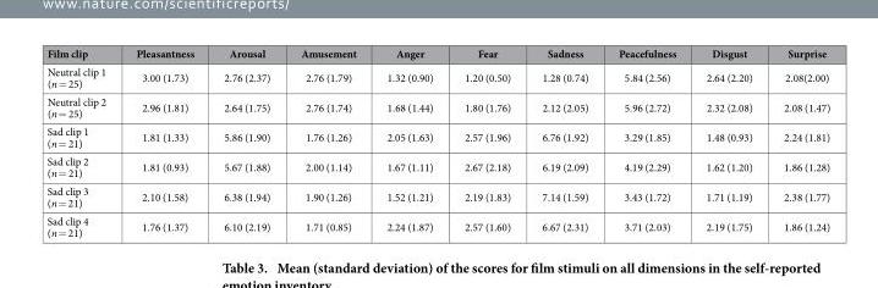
<table><thead><tr><td>Film clip</td><td>Pleasantness</td><td>Arousal</td><td>Amusement</td><td>Anger</td><td>Fear</td><td>Sadness</td><td>Peacefulness</td><td>Disgust</td><td>Surprise</td></tr></thead><tbody><tr><td>Neutral clip 1 (n = 25)</td><td>3.00 (1.73)</td><td>2.76 (2.37)</td><td>2.76 (1.79)</td><td>1.32 (0.90)</td><td>1.20 (0.50)</td><td>1.28 (0.74)</td><td>5.84 (2.56)</td><td>2.64 (2.20)</td><td>2.08(2.00)</td></tr><tr><td>Neutral clip 2 (n = 25)</td><td>2.96 (1.81)</td><td>2.64 (1.75)</td><td>2.76 (1.74)</td><td>1.68 (1.44)</td><td>1.80 (1.76)</td><td>2.12 (2.05)</td><td>5.96 (2.72)</td><td>2.32 (2.08)</td><td>2.08 (1.47)</td></tr><tr><td>Sad clip 1 (n = 21)</td><td>1.81 (1.33)</td><td>5.86 (1.90)</td><td>1.76 (1.26)</td><td>2.05 (1.63)</td><td>2.57 (1.96)</td><td>6.76 (1.92)</td><td>3.29 (1.85)</td><td>1.48 (0.93)</td><td>2.24 (1.81)</td></tr><tr><td>Sad clip 2 (n = 21)</td><td>1.81 (0.93)</td><td>5.67 (1.88)</td><td>2.00 (1.14)</td><td>1.67 (1.11)</td><td>2.67 (2.18)</td><td>6.19 (2.09)</td><td>4.19 (2.29)</td><td>1.62 (1.20)</td><td>1.86 (1.28)</td></tr><tr><td>Sad clip 3 (n = 21)</td><td>2.10 (1.58)</td><td>6.38 (1.94)</td><td>1.90 (1.26)</td><td>1.52 (1.21)</td><td>2.19 (1.83)</td><td>7.14 (1.59)</td><td>3.43 (1.72)</td><td>1.71 (1.19)</td><td>2.38 (1.77)</td></tr><tr><td>Sad clip 4 (n = 21)</td><td>1.76 (1.37)</td><td>6.10 (2.19)</td><td>1.71 (0.85)</td><td>2.24 (1.87)</td><td>2.57 (1.60)</td><td>6.67 (2.31)</td><td>3.71 (2.03)</td><td>2.19 (1.75)</td><td>1.86 (1.24)</td></tr></tbody></table>